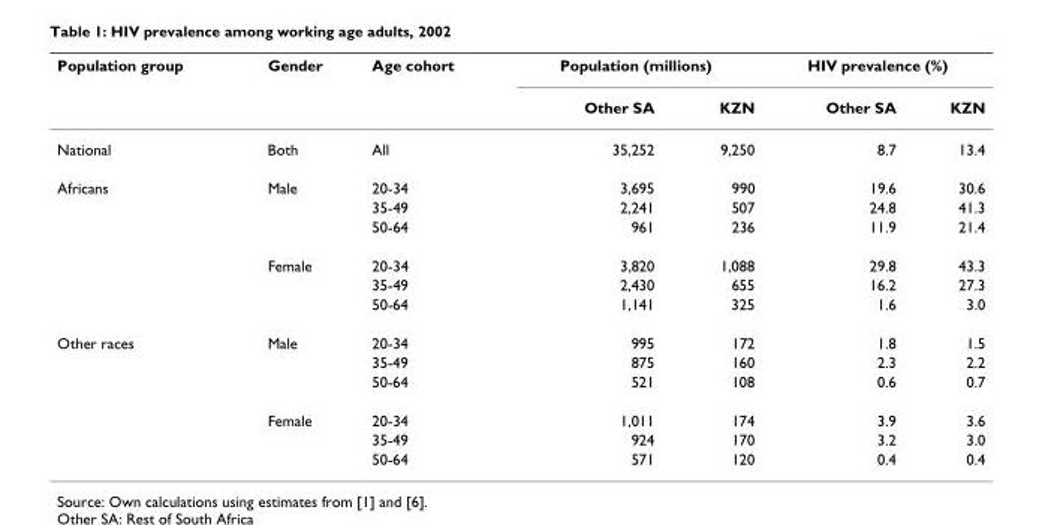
<table><thead><tr><td rowspan="2">Population group</td><td rowspan="2">Gender</td><td rowspan="2">Age cohort</td><td colspan="2">Population (millions)</td><td colspan="2">HIV prevalence (%)</td></tr><tr><td>Other SA</td><td>KZN</td><td>Other SA</td><td>KZN</td></tr></thead><tbody><tr><td>National</td><td>Both</td><td>All</td><td>35,252</td><td>9,250</td><td>8.7</td><td>13.4</td></tr><tr><td rowspan="6">Africans</td><td>Male</td><td>20-34</td><td>3,695</td><td>990</td><td>19.6</td><td>30.6</td></tr><tr><td></td><td>35-49</td><td>2,241</td><td>507</td><td>24.8</td><td>41.3</td></tr><tr><td></td><td>50-64</td><td>961</td><td>236</td><td>11.9</td><td>21.4</td></tr><tr><td>Female</td><td>20-34</td><td>3,820</td><td>1,088</td><td>29.8</td><td>43.3</td></tr><tr><td></td><td>35-49</td><td>2,430</td><td>655</td><td>16.2</td><td>27.3</td></tr><tr><td></td><td>50-64</td><td>1,141</td><td>325</td><td>1.6</td><td>3.0</td></tr><tr><td rowspan="6">Other races</td><td>Male</td><td>20-34</td><td>995</td><td>172</td><td>1.8</td><td>1.5</td></tr><tr><td></td><td>35-49</td><td>875</td><td>160</td><td>2.3</td><td>2.2</td></tr><tr><td></td><td>50-64</td><td>521</td><td>108</td><td>0.6</td><td>0.7</td></tr><tr><td>Female</td><td>20-34</td><td>1,011</td><td>174</td><td>3.9</td><td>3.6</td></tr><tr><td></td><td>35-49</td><td>924</td><td>170</td><td>3.2</td><td>3.0</td></tr><tr><td></td><td>50-64</td><td>571</td><td>120</td><td>0.4</td><td>0.4</td></tr></tbody></table>